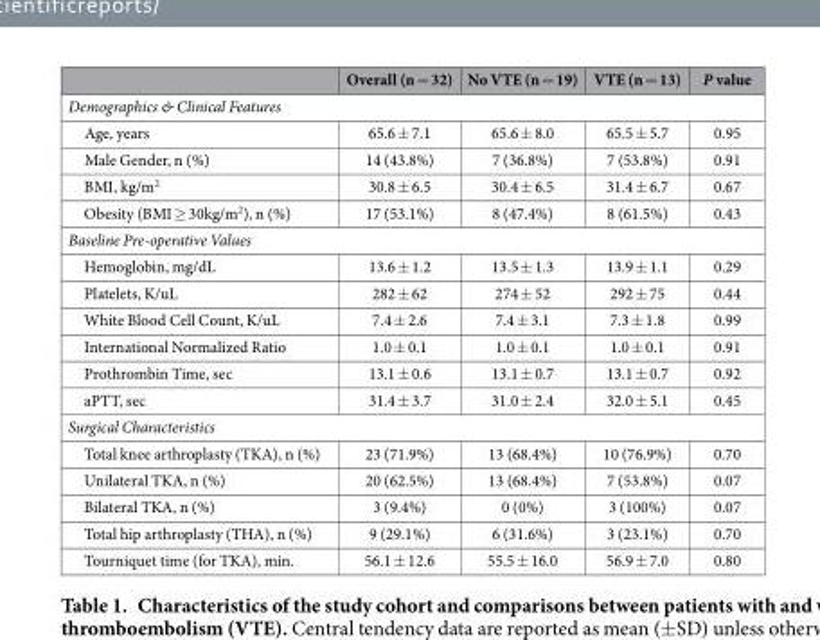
<table><thead><tr><td></td><td>Overall (n = 32)</td><td>No VTE (n = 19)</td><td>VTE (n = 13)</td><td>P value</td></tr></thead><tbody><tr><td colspan="5">Demographics &amp; Clinical Features</td></tr><tr><td>Age, years</td><td>65.6 ± 7.1</td><td>65.6 ± 8.0</td><td>65.5 ± 5.7</td><td>0.95</td></tr><tr><td>Male Gender, n (%)</td><td>14 (43.8%)</td><td>7 (36.8%)</td><td>7 (53.8%)</td><td>0.91</td></tr><tr><td>BMI, kg/m<sup>2</sup></td><td>30.8 ± 6.5</td><td>30.4 ± 6.5</td><td>31.4 ± 6.7</td><td>0.67</td></tr><tr><td>Obesity (BMI ≥ 30kg/m<sup>2</sup>), n (%)</td><td>17 (53.1%)</td><td>8 (47.4%)</td><td>8 (61.5%)</td><td>0.43</td></tr><tr><td colspan="5">Baseline Pre-operative Values</td></tr><tr><td>Hemoglobin, mg/dL</td><td>13.6 ± 1.2</td><td>13.5 ± 1.3</td><td>13.9 ± 1.1</td><td>0.29</td></tr><tr><td>Platelets, K/uL</td><td>282 ± 62</td><td>274 ± 52</td><td>292 ± 75</td><td>0.44</td></tr><tr><td>White Blood Cell Count, K/uL</td><td>7.4 ± 2.6</td><td>7.4 ± 3.1</td><td>7.3 ± 1.8</td><td>0.99</td></tr><tr><td>International Normalized Ratio</td><td>1.0 ± 0.1</td><td>1.0 ± 0.1</td><td>1.0 ± 0.1</td><td>0.91</td></tr><tr><td>Prothrombin Time, sec</td><td>13.1 ± 0.6</td><td>13.1 ± 0.7</td><td>13.1 ± 0.7</td><td>0.92</td></tr><tr><td>aPTT, sec</td><td>31.4 ± 3.7</td><td>31.0 ± 2.4</td><td>32.0 ± 5.1</td><td>0.45</td></tr><tr><td colspan="5">Surgical Characteristics</td></tr><tr><td>Total knee arthroplasty (TKA), n (%)</td><td>23 (71.9%)</td><td>13 (68.4%)</td><td>10 (76.9%)</td><td>0.70</td></tr><tr><td>Unilateral TKA, n (%)</td><td>20 (62.5%)</td><td>13 (68.4%)</td><td>7 (53.8%)</td><td>0.07</td></tr><tr><td>Bilateral TKA, n (%)</td><td>3 (9.4%)</td><td>0 (0%)</td><td>3 (100%)</td><td>0.07</td></tr><tr><td>Total hip arthroplasty (THA), n (%)</td><td>9 (29.1%)</td><td>6 (31.6%)</td><td>3 (23.1%)</td><td>0.70</td></tr><tr><td>Tourniquet time (for TKA), min.</td><td>56.1 ± 12.6</td><td>55.5 ± 16.0</td><td>56.9 ± 7.0</td><td>0.80</td></tr></tbody></table>